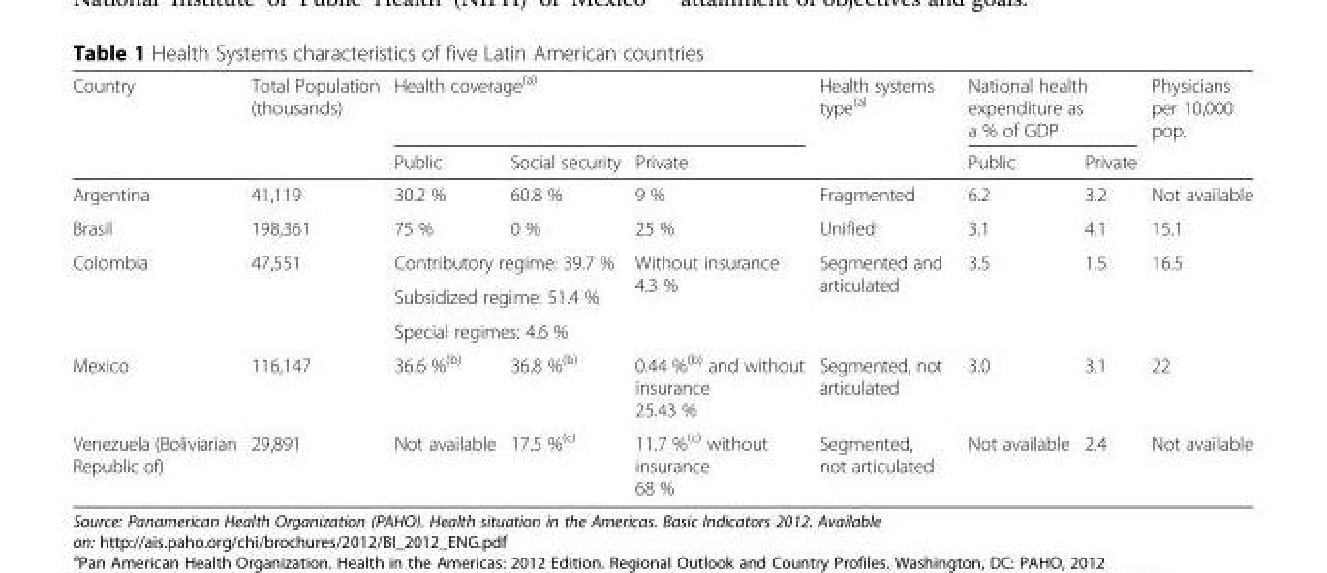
<table><thead><tr><td rowspan="2">Country</td><td rowspan="2">Total Population (thousands)</td><td colspan="3">Health coverage<sup>(a)</sup></td><td rowspan="2">Health systems type<sup>(a)</sup></td><td colspan="2">National health expenditure as a % of GDP</td><td rowspan="2">Physicians per 10,000 pop.</td></tr><tr><td>Public</td><td>Social security</td><td>Private</td><td>Public</td><td>Private</td></tr></thead><tbody><tr><td>Argentina</td><td>41,119</td><td>30.2 %</td><td>60.8 %</td><td>9 %</td><td>Fragmented</td><td>6.2</td><td>3.2</td><td>Not available</td></tr><tr><td>Brasil</td><td>198,361</td><td>75 %</td><td>0 %</td><td>25 %</td><td>Unified</td><td>3.1</td><td>4.1</td><td>15.1</td></tr><tr><td rowspan="3">Colombia</td><td rowspan="3">47,551</td><td colspan="2">Contributory regime: 39.7 %</td><td rowspan="3">Without insurance 4.3 %</td><td rowspan="3">Segmented and articulated</td><td rowspan="3">3.5</td><td rowspan="3">1.5</td><td rowspan="3">16.5</td></tr><tr><td colspan="2">Subsidized regime: 51.4 %</td></tr><tr><td colspan="2">Special regimes: 4.6 %</td></tr><tr><td>Mexico</td><td>116,147</td><td>36.6 %<sup>(b)</sup></td><td>36.8 %<sup>(b)</sup></td><td>0.44 %<sup>(b)</sup> and without insurance 25.43 %</td><td>Segmented, not articulated</td><td>3.0</td><td>3.1</td><td>22</td></tr><tr><td>Venezuela (Boliviarian Republic of)</td><td>29,891</td><td>Not available</td><td>17.5 %<sup>(c)</sup></td><td>11.7 %<sup>(c)</sup> without insurance 68 %</td><td>Segmented, not articulated</td><td>Not available</td><td>2.4</td><td>Not available</td></tr></tbody></table>